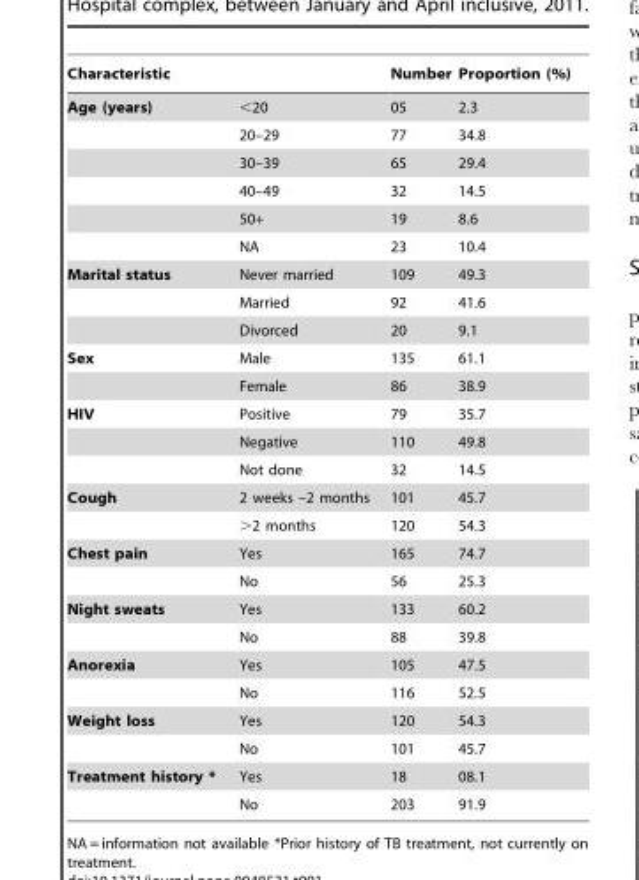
<table><thead><tr><td colspan="2">Characteristic</td><td rowspan="2">Number 05</td><td rowspan="2">Proportion (%) 2.3</td></tr><tr><td>Age (years)</td><td>&lt;20</td></tr></thead><tbody><tr><td></td><td>20–29</td><td>77</td><td>34.8</td></tr><tr><td></td><td>30–39</td><td>65</td><td>29.4</td></tr><tr><td></td><td>40–49</td><td>32</td><td>14.5</td></tr><tr><td></td><td>50+</td><td>19</td><td>8.6</td></tr><tr><td></td><td>NA</td><td>23</td><td>10.4</td></tr><tr><td rowspan="3">Marital status</td><td>Never married</td><td>109</td><td>49.3</td></tr><tr><td>Married</td><td>92</td><td>41.6</td></tr><tr><td>Divorced</td><td>20</td><td>9.1</td></tr><tr><td rowspan="2">Sex</td><td>Male</td><td>135</td><td>61.1</td></tr><tr><td>Female</td><td>86</td><td>38.9</td></tr><tr><td rowspan="3">HIV</td><td>Positive</td><td>79</td><td>35.7</td></tr><tr><td>Negative</td><td>110</td><td>49.8</td></tr><tr><td>Not done</td><td>32</td><td>14.5</td></tr><tr><td rowspan="2">Cough</td><td>2 weeks –2 months</td><td>101</td><td>45.7</td></tr><tr><td>&gt;2 months</td><td>120</td><td>54.3</td></tr><tr><td rowspan="2">Chest pain</td><td>Yes</td><td>165</td><td>74.7</td></tr><tr><td>No</td><td>56</td><td>25.3</td></tr><tr><td rowspan="2">Night sweats</td><td>Yes</td><td>133</td><td>60.2</td></tr><tr><td>No</td><td>88</td><td>39.8</td></tr><tr><td rowspan="2">Anorexia</td><td>Yes</td><td>105</td><td>47.5</td></tr><tr><td>No</td><td>116</td><td>52.5</td></tr><tr><td rowspan="2">Weight loss</td><td>Yes</td><td>120</td><td>54.3</td></tr><tr><td>No</td><td>101</td><td>45.7</td></tr><tr><td rowspan="2">Treatment history *</td><td>Yes</td><td>18</td><td>08.1</td></tr><tr><td>No</td><td>203</td><td>91.9</td></tr></tbody></table>